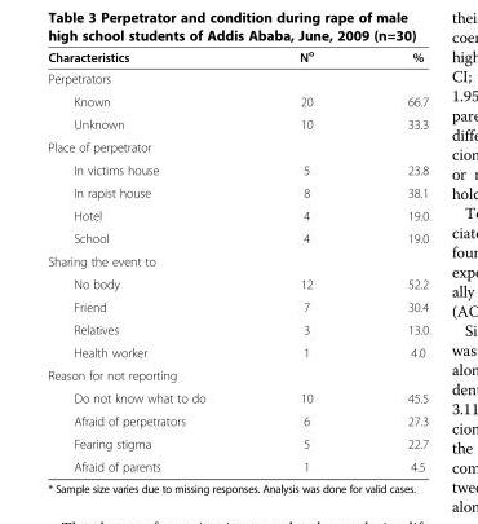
<table><thead><tr><td>Characteristics</td><td>N<sup>o</sup></td><td>%</td></tr></thead><tbody><tr><td colspan="3">Perpetrators</td></tr><tr><td>Known</td><td>20</td><td>66.7</td></tr><tr><td>Unknown</td><td>10</td><td>33.3</td></tr><tr><td colspan="3">Place of perpetrator</td></tr><tr><td>In victims house</td><td>5</td><td>23.8</td></tr><tr><td>In rapist house</td><td>8</td><td>38.1</td></tr><tr><td>Hotel</td><td>4</td><td>19.0</td></tr><tr><td>School</td><td>4</td><td>19.0</td></tr><tr><td colspan="3">Sharing the event to</td></tr><tr><td>No body</td><td>12</td><td>52.2</td></tr><tr><td>Friend</td><td>7</td><td>30.4</td></tr><tr><td>Relatives</td><td>3</td><td>13.0</td></tr><tr><td>Health worker</td><td>1</td><td>4.0</td></tr><tr><td colspan="3">Reason for not reporting</td></tr><tr><td>Do not know what to do</td><td>10</td><td>45.5</td></tr><tr><td>Afraid of perpetrators</td><td>6</td><td>27.3</td></tr><tr><td>Fearing stigma</td><td>5</td><td>22.7</td></tr><tr><td>Afraid of parents</td><td>1</td><td>4.5</td></tr></tbody></table>